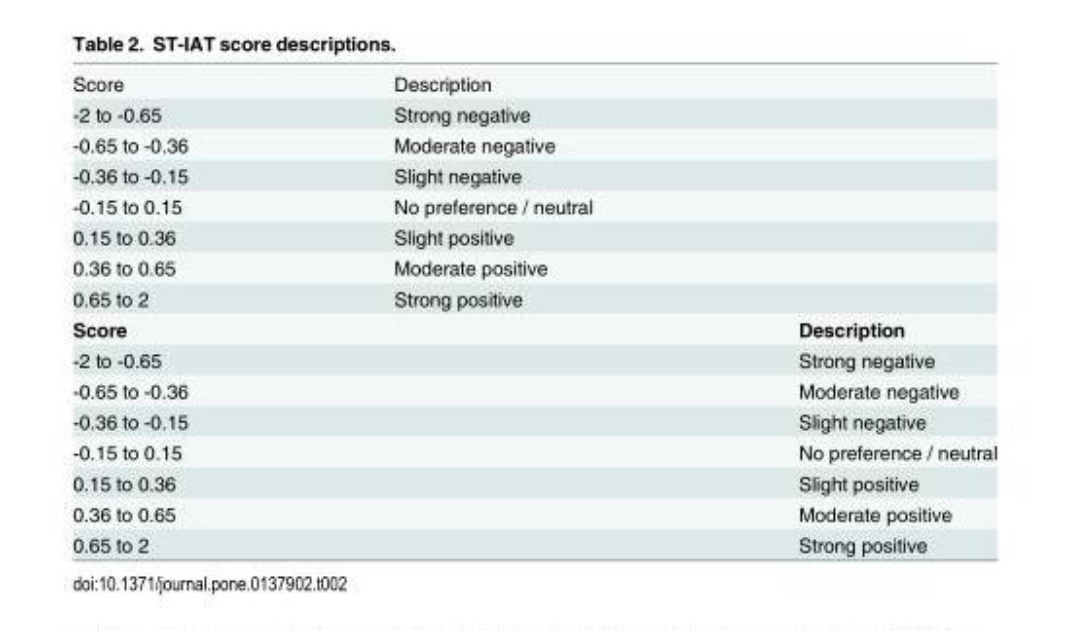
<table><tbody><tr><td>Score</td><td>Description</td><td></td></tr><tr><td>-2 to -0.65</td><td>Strong negative</td><td></td></tr><tr><td>-0.65 to -0.36</td><td>Moderate negative</td><td></td></tr><tr><td>-0.36 to -0.15</td><td>Slight negative</td><td></td></tr><tr><td>-0.15 to 0.15</td><td>No preference / neutral</td><td></td></tr><tr><td>0.15 to 0.36</td><td>Slight positive</td><td></td></tr><tr><td>0.36 to 0.65</td><td>Moderate positive</td><td></td></tr><tr><td>0.65 to 2</td><td>Strong positive</td><td></td></tr><tr><td colspan="2">Score</td><td>Description</td></tr><tr><td colspan="2">-2 to -0.65</td><td>Strong negative</td></tr><tr><td colspan="2">-0.65 to -0.36</td><td>Moderate negative</td></tr><tr><td colspan="2">-0.36 to -0.15</td><td>Slight negative</td></tr><tr><td colspan="2">-0.15 to 0.15</td><td>No preference / neutral</td></tr><tr><td colspan="2">0.15 to 0.36</td><td>Slight positive</td></tr><tr><td colspan="2">0.36 to 0.65</td><td>Moderate positive</td></tr><tr><td colspan="2">0.65 to 2</td><td>Strong positive</td></tr></tbody></table>